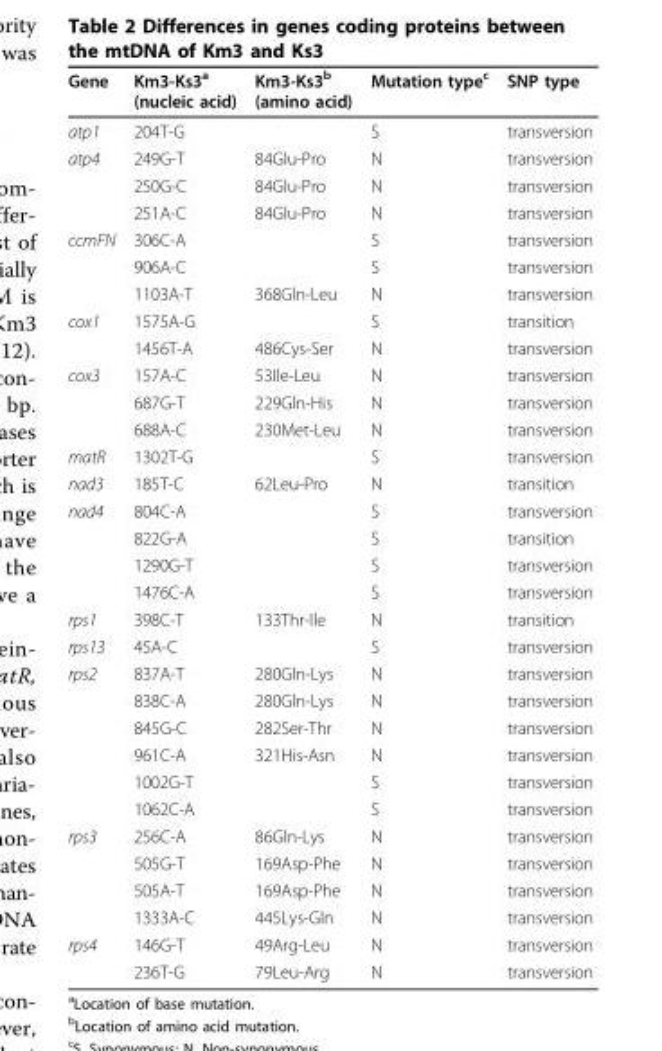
<table><thead><tr><td>Gene</td><td>Km3-Ks3<sup>a</sup> (nucleic acid)</td><td>Km3-Ks3<sup>b</sup> (amino acid)</td><td>Mutation type<sup>c</sup></td><td>SNP type</td></tr></thead><tbody><tr><td>atp1</td><td>204T-G</td><td></td><td>S</td><td>transversion</td></tr><tr><td rowspan="3">atp4</td><td>249G-T</td><td>84Glu-Pro</td><td>N</td><td>transversion</td></tr><tr><td>250G-C</td><td>84Glu-Pro</td><td>N</td><td>transversion</td></tr><tr><td>251A-C</td><td>84Glu-Pro</td><td>N</td><td>transversion</td></tr><tr><td rowspan="3">ccmFN</td><td>306C-A</td><td></td><td>S</td><td>transversion</td></tr><tr><td>906A-C</td><td></td><td>S</td><td>transversion</td></tr><tr><td>1103A-T</td><td>368Gln-Leu</td><td>N</td><td>transversion</td></tr><tr><td rowspan="2">cox1</td><td>1575A-G</td><td></td><td>S</td><td>transition</td></tr><tr><td>1456T-A</td><td>486Cys-Ser</td><td>N</td><td>transversion</td></tr><tr><td rowspan="3">cox3</td><td>157A-C</td><td>53Ile-Leu</td><td>N</td><td>transversion</td></tr><tr><td>687G-T</td><td>229Gln-His</td><td>N</td><td>transversion</td></tr><tr><td>688A-C</td><td>230Met-Leu</td><td>N</td><td>transversion</td></tr><tr><td>matR</td><td>1302T-G</td><td></td><td>S</td><td>transversion</td></tr><tr><td>nad3</td><td>185T-C</td><td>62Leu-Pro</td><td>N</td><td>transition</td></tr><tr><td rowspan="4">nad4</td><td>804C-A</td><td></td><td>S</td><td>transversion</td></tr><tr><td>822G-A</td><td></td><td>S</td><td>transition</td></tr><tr><td>1290G-T</td><td></td><td>S</td><td>transversion</td></tr><tr><td>1476C-A</td><td></td><td>S</td><td>transversion</td></tr><tr><td>rps1</td><td>398C-T</td><td>133Thr-Ile</td><td>N</td><td>transition</td></tr><tr><td>rps13</td><td>45A-C</td><td></td><td>S</td><td>transversion</td></tr><tr><td rowspan="6">rps2</td><td>837A-T</td><td>280Gln-Lys</td><td>N</td><td>transversion</td></tr><tr><td>838C-A</td><td>280Gln-Lys</td><td>N</td><td>transversion</td></tr><tr><td>845G-C</td><td>282Ser-Thr</td><td>N</td><td>transversion</td></tr><tr><td>961C-A</td><td>321His-Asn</td><td>N</td><td>transversion</td></tr><tr><td>1002G-T</td><td></td><td>S</td><td>transversion</td></tr><tr><td>1062C-A</td><td></td><td>S</td><td>transversion</td></tr><tr><td rowspan="4">rps3</td><td>256C-A</td><td>86Gln-Lys</td><td>N</td><td>transversion</td></tr><tr><td>505G-T</td><td>169Asp-Phe</td><td>N</td><td>transversion</td></tr><tr><td>505A-T</td><td>169Asp-Phe</td><td>N</td><td>transversion</td></tr><tr><td>1333A-C</td><td>445Lys-Gln</td><td>N</td><td>transversion</td></tr><tr><td rowspan="2">rps4</td><td>146G-T</td><td>49Arg-Leu</td><td>N</td><td>transversion</td></tr><tr><td>236T-G</td><td>79Leu-Arg</td><td>N</td><td>transversion</td></tr></tbody></table>